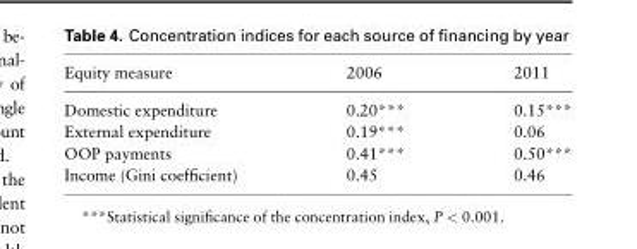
<table><thead><tr><td>Equity measure</td><td>2006</td><td>2011</td></tr></thead><tbody><tr><td>Domestic expenditure</td><td>0.20***</td><td>0.15***</td></tr><tr><td>External expenditure</td><td>0.19***</td><td>0.06</td></tr><tr><td>OOP payments</td><td>0.41***</td><td>0.50***</td></tr><tr><td>Income (Gini coefficient)</td><td>0.45</td><td>0.46</td></tr></tbody></table>